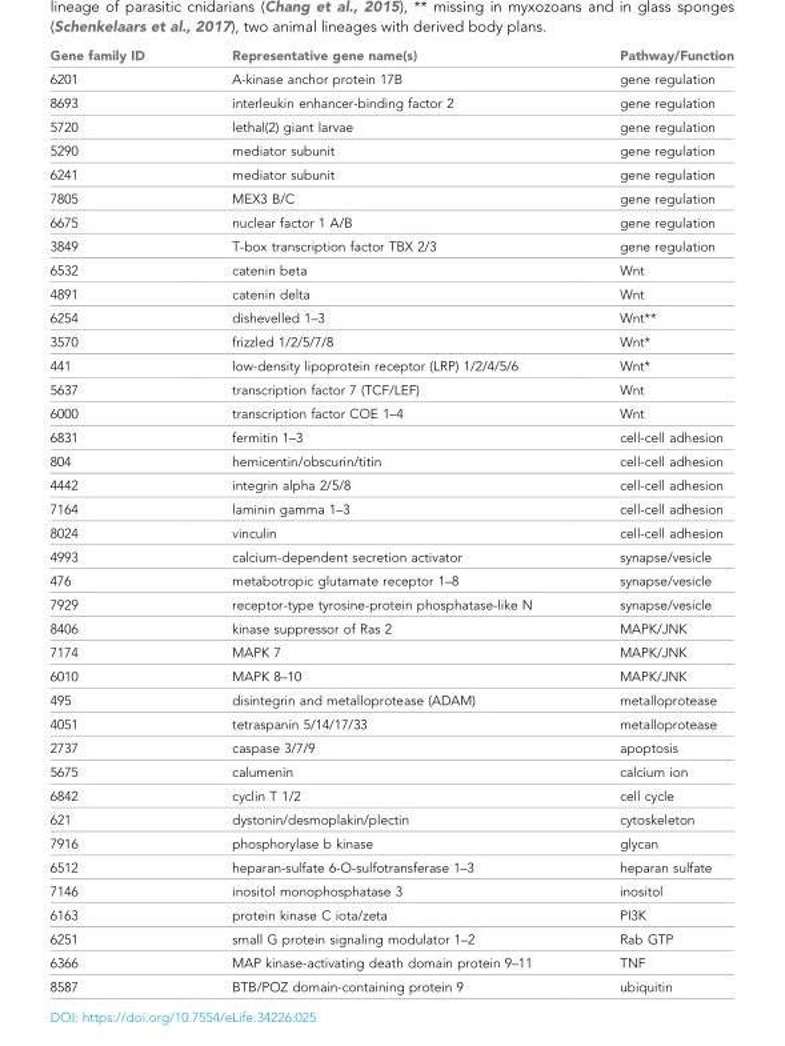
<table><thead><tr><td>Gene family ID</td><td>Representative gene name(s)</td><td>Pathway/Function</td></tr></thead><tbody><tr><td>6201</td><td>A-kinase anchor protein 17B</td><td>gene regulation</td></tr><tr><td>8693</td><td>interleukin enhancer-binding factor 2</td><td>gene regulation</td></tr><tr><td>5720</td><td>lethal(2) giant larvae</td><td>gene regulation</td></tr><tr><td>5290</td><td>mediator subunit</td><td>gene regulation</td></tr><tr><td>6241</td><td>mediator subunit</td><td>gene regulation</td></tr><tr><td>7805</td><td>MEX3 B/C</td><td>gene regulation</td></tr><tr><td>6675</td><td>nuclear factor 1 A/B</td><td>gene regulation</td></tr><tr><td>3849</td><td>T-box transcription factor TBX 2/3</td><td>gene regulation</td></tr><tr><td>6532</td><td>catenin beta</td><td>Wnt</td></tr><tr><td>4891</td><td>catenin delta</td><td>Wnt</td></tr><tr><td>6254</td><td>dishevelled 1–3</td><td>Wnt**</td></tr><tr><td>3570</td><td>frizzled 1/2/5/7/8</td><td>Wnt*</td></tr><tr><td>441</td><td>low-density lipoprotein receptor (LRP) 1/2/4/5/6</td><td>Wnt*</td></tr><tr><td>5637</td><td>transcription factor 7 (TCF/LEF)</td><td>Wnt</td></tr><tr><td>6000</td><td>transcription factor COE 1–4</td><td>Wnt</td></tr><tr><td>6831</td><td>fermitin 1–3</td><td>cell-cell adhesion</td></tr><tr><td>804</td><td>hemicentin/obscurin/titin</td><td>cell-cell adhesion</td></tr><tr><td>4442</td><td>integrin alpha 2/5/8</td><td>cell-cell adhesion</td></tr><tr><td>7164</td><td>laminin gamma 1–3</td><td>cell-cell adhesion</td></tr><tr><td>8024</td><td>vinculin</td><td>cell-cell adhesion</td></tr><tr><td>4993</td><td>calcium-dependent secretion activator</td><td>synapse/vesicle</td></tr><tr><td>476</td><td>metabotropic glutamate receptor 1–8</td><td>synapse/vesicle</td></tr><tr><td>7929</td><td>receptor-type tyrosine-protein phosphatase-like N</td><td>synapse/vesicle</td></tr><tr><td>8406</td><td>kinase suppressor of Ras 2</td><td>MAPK/JNK</td></tr><tr><td>7174</td><td>MAPK 7</td><td>MAPK/JNK</td></tr><tr><td>6010</td><td>MAPK 8–10</td><td>MAPK/JNK</td></tr><tr><td>495</td><td>disintegrin and metalloprotease (ADAM)</td><td>metalloprotease</td></tr><tr><td>4051</td><td>tetraspanin 5/14/17/33</td><td>metalloprotease</td></tr><tr><td>2737</td><td>caspase 3/7/9</td><td>apoptosis</td></tr><tr><td>5675</td><td>calumenin</td><td>calcium ion</td></tr><tr><td>6842</td><td>cyclin T 1/2</td><td>cell cycle</td></tr><tr><td>621</td><td>dystonin/desmoplakin/plectin</td><td>cytoskeleton</td></tr><tr><td>7916</td><td>phosphorylase b kinase</td><td>glycan</td></tr><tr><td>6512</td><td>heparan-sulfate 6-O-sulfotransferase 1–3</td><td>heparan sulfate</td></tr><tr><td>7146</td><td>inositol monophosphatase 3</td><td>inositol</td></tr><tr><td>6163</td><td>protein kinase C iota/zeta</td><td>PI3K</td></tr><tr><td>6251</td><td>small G protein signaling modulator 1–2</td><td>Rab GTP</td></tr><tr><td>6366</td><td>MAP kinase-activating death domain protein 9–11</td><td>TNF</td></tr><tr><td>8587</td><td>BTB/POZ domain-containing protein 9</td><td>ubiquitin</td></tr></tbody></table>